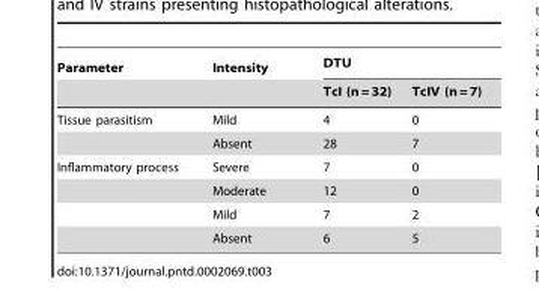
<table><thead><tr><td rowspan="2">Parameter</td><td rowspan="2">Intensity</td><td colspan="2">DTU</td></tr><tr><td>TcI (n = 32)</td><td>TcIV (n = 7)</td></tr></thead><tbody><tr><td rowspan="2">Tissue parasitism</td><td>Mild</td><td>4</td><td>0</td></tr><tr><td>Absent</td><td>28</td><td>7</td></tr><tr><td rowspan="4">Inflammatory process</td><td>Severe</td><td>7</td><td>0</td></tr><tr><td>Moderate</td><td>12</td><td>0</td></tr><tr><td>Mild</td><td>7</td><td>2</td></tr><tr><td>Absent</td><td>6</td><td>5</td></tr></tbody></table>